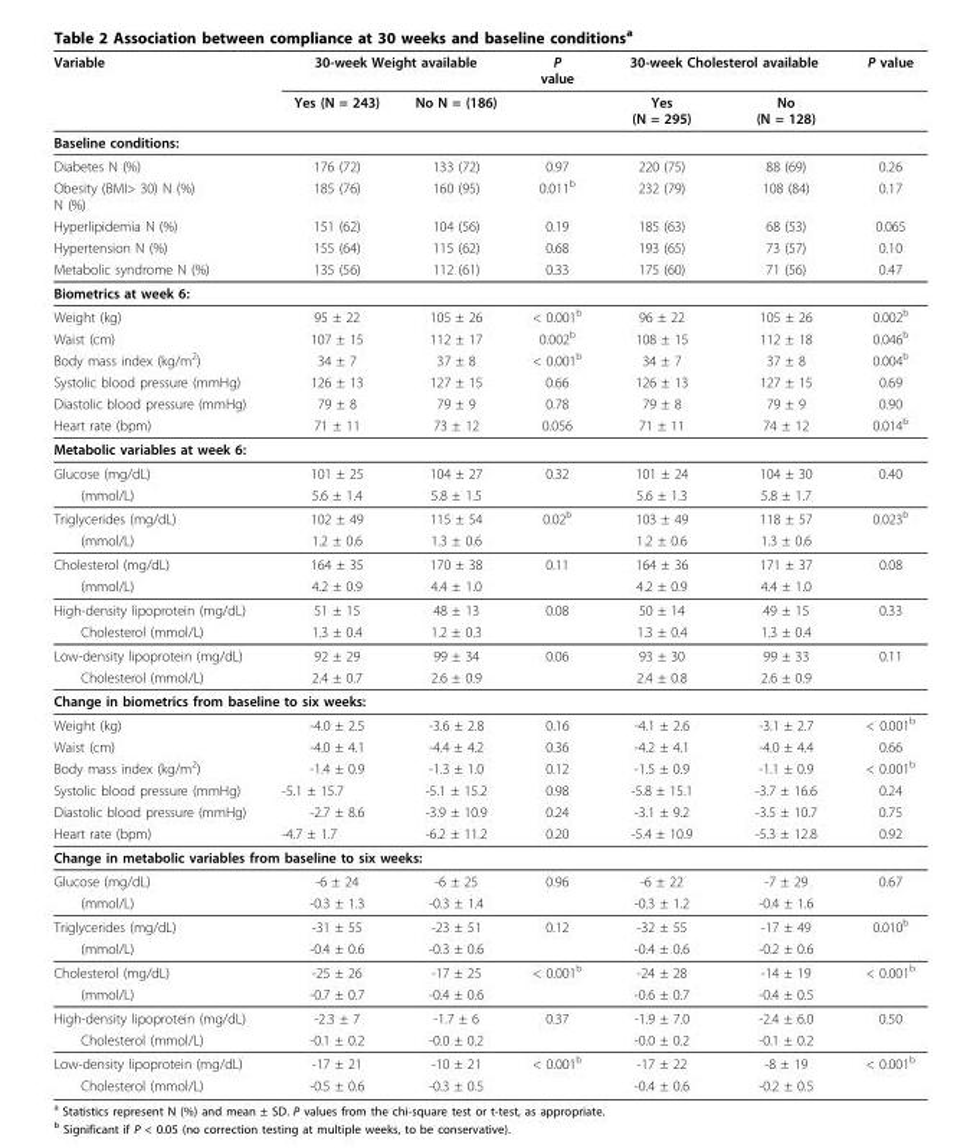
<table><thead><tr><td rowspan="2">Variable</td><td colspan="2">30-week Weight available</td><td rowspan="2">P value</td><td colspan="2">30-week Cholesterol available</td><td rowspan="2">P value</td></tr><tr><td>Yes (N = 243)</td><td>No N = (186)</td><td>Yes (N = 295)</td><td>No (N = 128)</td></tr></thead><tbody><tr><td colspan="7">Baseline conditions:</td></tr><tr><td>Diabetes N (%)</td><td>176 (72)</td><td>133 (72)</td><td>0.97</td><td>220 (75)</td><td>88 (69)</td><td>0.26</td></tr><tr><td>Obesity (BMI&gt; 30) N (%) N (%)</td><td>185 (76)</td><td>160 (95)</td><td>0.011<sup>b</sup></td><td>232 (79)</td><td>108 (84)</td><td>0.17</td></tr><tr><td>Hyperlipidemia N (%)</td><td>151 (62)</td><td>104 (56)</td><td>0.19</td><td>185 (63)</td><td>68 (53)</td><td>0.065</td></tr><tr><td>Hypertension N (%)</td><td>155 (64)</td><td>115 (62)</td><td>0.68</td><td>193 (65)</td><td>73 (57)</td><td>0.10</td></tr><tr><td>Metabolic syndrome N (%)</td><td>135 (56)</td><td>112 (61)</td><td>0.33</td><td>175 (60)</td><td>71 (56)</td><td>0.47</td></tr><tr><td colspan="7">Biometrics at week 6:</td></tr><tr><td>Weight (kg)</td><td>95 ± 22</td><td>105 ± 26</td><td>&lt; 0.001<sup>b</sup></td><td>96 ± 22</td><td>105 ± 26</td><td>0.002<sup>b</sup></td></tr><tr><td>Waist (cm)</td><td>107 ± 15</td><td>112 ± 17</td><td>0.002<sup>b</sup></td><td>108 ± 15</td><td>112 ± 18</td><td>0.046<sup>b</sup></td></tr><tr><td>Body mass index (kg/m<sup>2</sup>)</td><td>34 ± 7</td><td>37 ± 8</td><td>&lt; 0.001<sup>b</sup></td><td>34 ± 7</td><td>37 ± 8</td><td>0.004<sup>b</sup></td></tr><tr><td>Systolic blood pressure (mmHg)</td><td>126 ± 13</td><td>127 ± 15</td><td>0.66</td><td>126 ± 13</td><td>127 ± 15</td><td>0.69</td></tr><tr><td>Diastolic blood pressure (mmHg)</td><td>79 ± 8</td><td>79 ± 9</td><td>0.78</td><td>79 ± 8</td><td>79 ± 9</td><td>0.90</td></tr><tr><td>Heart rate (bpm)</td><td>71 ± 11</td><td>73 ± 12</td><td>0.056</td><td>71 ± 11</td><td>74 ± 12</td><td>0.014<sup>b</sup></td></tr><tr><td colspan="7">Metabolic variables at week 6:</td></tr><tr><td>Glucose (mg/dL)</td><td>101 ± 25</td><td>104 ± 27</td><td>0.32</td><td>101 ± 24</td><td>104 ± 30</td><td>0.40</td></tr><tr><td>(mmol/L)</td><td>5.6 ± 1.4</td><td>5.8 ± 1.5</td><td></td><td>5.6 ± 1.3</td><td>5.8 ± 1.7</td><td></td></tr><tr><td>Triglycerides (mg/dL)</td><td>102 ± 49</td><td>115 ± 54</td><td>0.02<sup>b</sup></td><td>103 ± 49</td><td>118 ± 57</td><td>0.023<sup>b</sup></td></tr><tr><td>(mmol/L)</td><td>1.2 ± 0.6</td><td>1.3 ± 0.6</td><td></td><td>1.2 ± 0.6</td><td>1.3 ± 0.6</td><td></td></tr><tr><td>Cholesterol (mg/dL)</td><td>164 ± 35</td><td>170 ± 38</td><td>0.11</td><td>164 ± 36</td><td>171 ± 37</td><td>0.08</td></tr><tr><td>(mmol/L)</td><td>4.2 ± 0.9</td><td>4.4 ± 1.0</td><td></td><td>4.2 ± 0.9</td><td>4.4 ± 1.0</td><td></td></tr><tr><td>High-density lipoprotein (mg/dL)</td><td>51 ± 15</td><td>48 ± 13</td><td>0.08</td><td>50 ± 14</td><td>49 ± 15</td><td>0.33</td></tr><tr><td>Cholesterol (mmol/L)</td><td>1.3 ± 0.4</td><td>1.2 ± 0.3</td><td></td><td>1.3 ± 0.4</td><td>1.3 ± 0.4</td><td></td></tr><tr><td>Low-density lipoprotein (mg/dL)</td><td>92 ± 29</td><td>99 ± 34</td><td>0.06</td><td>93 ± 30</td><td>99 ± 33</td><td>0.11</td></tr><tr><td>Cholesterol (mmol/L)</td><td>2.4 ± 0.7</td><td>2.6 ± 0.9</td><td></td><td>2.4 ± 0.8</td><td>2.6 ± 0.9</td><td></td></tr><tr><td colspan="7">Change in biometrics from baseline to six weeks:</td></tr><tr><td>Weight (kg)</td><td>-4.0 ± 2.5</td><td>-3.6 ± 2.8</td><td>0.16</td><td>-4.1 ± 2.6</td><td>-3.1 ± 2.7</td><td>&lt; 0.001<sup>b</sup></td></tr><tr><td>Waist (cm)</td><td>-4.0 ± 4.1</td><td>-4.4 ± 4.2</td><td>0.36</td><td>-4.2 ± 4.1</td><td>-4.0 ± 4.4</td><td>0.66</td></tr><tr><td>Body mass index (kg/m<sup>2</sup>)</td><td>-1.4 ± 0.9</td><td>-1.3 ± 1.0</td><td>0.12</td><td>-1.5 ± 0.9</td><td>-1.1 ± 0.9</td><td>&lt; 0.001<sup>b</sup></td></tr><tr><td>Systolic blood pressure (mmHg)</td><td>-5.1 ± 15.7</td><td>-5.1 ± 15.2</td><td>0.98</td><td>-5.8 ± 15.1</td><td>-3.7 ± 16.6</td><td>0.24</td></tr><tr><td>Diastolic blood pressure (mmHg)</td><td>-2.7 ± 8.6</td><td>-3.9 ± 10.9</td><td>0.24</td><td>-3.1 ± 9.2</td><td>-3.5 ± 10.7</td><td>0.75</td></tr><tr><td>Heart rate (bpm)</td><td>-4.7 ± 1.7</td><td>-6.2 ± 11.2</td><td>0.20</td><td>-5.4 ± 10.9</td><td>-5.3 ± 12.8</td><td>0.92</td></tr><tr><td colspan="7">Change in metabolic variables from baseline to six weeks:</td></tr><tr><td>Glucose (mg/dL)</td><td>-6 ± 24</td><td>-6 ± 25</td><td>0.96</td><td>-6 ± 22</td><td>-7 ± 29</td><td>0.67</td></tr><tr><td>(mmol/L)</td><td>-0.3 ± 1.3</td><td>-0.3 ± 1.4</td><td></td><td>-0.3 ± 1.2</td><td>-0.4 ± 1.6</td><td></td></tr><tr><td>Triglycerides (mg/dL)</td><td>-31 ± 55</td><td>-23 ± 51</td><td>0.12</td><td>-32 ± 55</td><td>-17 ± 49</td><td>0.010<sup>b</sup></td></tr><tr><td>(mmol/L)</td><td>-0.4 ± 0.6</td><td>-0.3 ± 0.6</td><td></td><td>-0.4 ± 0.6</td><td>-0.2 ± 0.6</td><td></td></tr><tr><td>Cholesterol (mg/dL)</td><td>-25 ± 26</td><td>-17 ± 25</td><td>&lt; 0.001<sup>b</sup></td><td>-24 ± 28</td><td>-14 ± 19</td><td>&lt; 0.001<sup>b</sup></td></tr><tr><td>(mmol/L)</td><td>-0.7 ± 0.7</td><td>-0.4 ± 0.6</td><td></td><td>-0.6 ± 0.7</td><td>-0.4 ± 0.5</td><td></td></tr><tr><td>High-density lipoprotein (mg/dL)</td><td>-2.3 ± 7</td><td>-1.7 ± 6</td><td>0.37</td><td>-1.9 ± 7.0</td><td>-2.4 ± 6.0</td><td>0.50</td></tr><tr><td>Cholesterol (mmol/L)</td><td>-0.1 ± 0.2</td><td>-0.0 ± 0.2</td><td></td><td>-0.0 ± 0.2</td><td>-0.1 ± 0.2</td><td></td></tr><tr><td>Low-density lipoprotein (mg/dL)</td><td>-17 ± 21</td><td>-10 ± 21</td><td>&lt; 0.001<sup>b</sup></td><td>-17 ± 22</td><td>-8 ± 19</td><td>&lt; 0.001<sup>b</sup></td></tr><tr><td>Cholesterol (mmol/L)</td><td>-0.5 ± 0.6</td><td>-0.3 ± 0.5</td><td></td><td>-0.4 ± 0.6</td><td>-0.2 ± 0.5</td><td></td></tr></tbody></table>